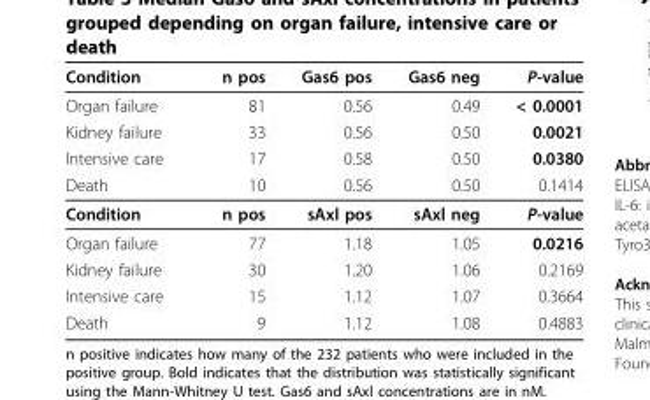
<table><thead><tr><td>Condition</td><td>n pos</td><td>Gas6 pos</td><td>Gas6 neg</td><td>P-value</td></tr></thead><tbody><tr><td>Organ failure</td><td>81</td><td>0.56</td><td>0.49</td><td>&lt; 0.0001</td></tr><tr><td>Kidney failure</td><td>33</td><td>0.56</td><td>0.50</td><td>0.0021</td></tr><tr><td>Intensive care</td><td>17</td><td>0.58</td><td>0.50</td><td>0.0380</td></tr><tr><td>Death</td><td>10</td><td>0.56</td><td>0.50</td><td>0.1414</td></tr><tr><td>Condition</td><td>n pos</td><td>sAxl pos</td><td>sAxl neg</td><td>P-value</td></tr><tr><td>Organ failure</td><td>77</td><td>1.18</td><td>1.05</td><td>0.0216</td></tr><tr><td>Kidney failure</td><td>30</td><td>1.20</td><td>1.06</td><td>0.2169</td></tr><tr><td>Intensive care</td><td>15</td><td>1.12</td><td>1.07</td><td>0.3664</td></tr><tr><td>Death</td><td>9</td><td>1.12</td><td>1.08</td><td>0.4883</td></tr></tbody></table>